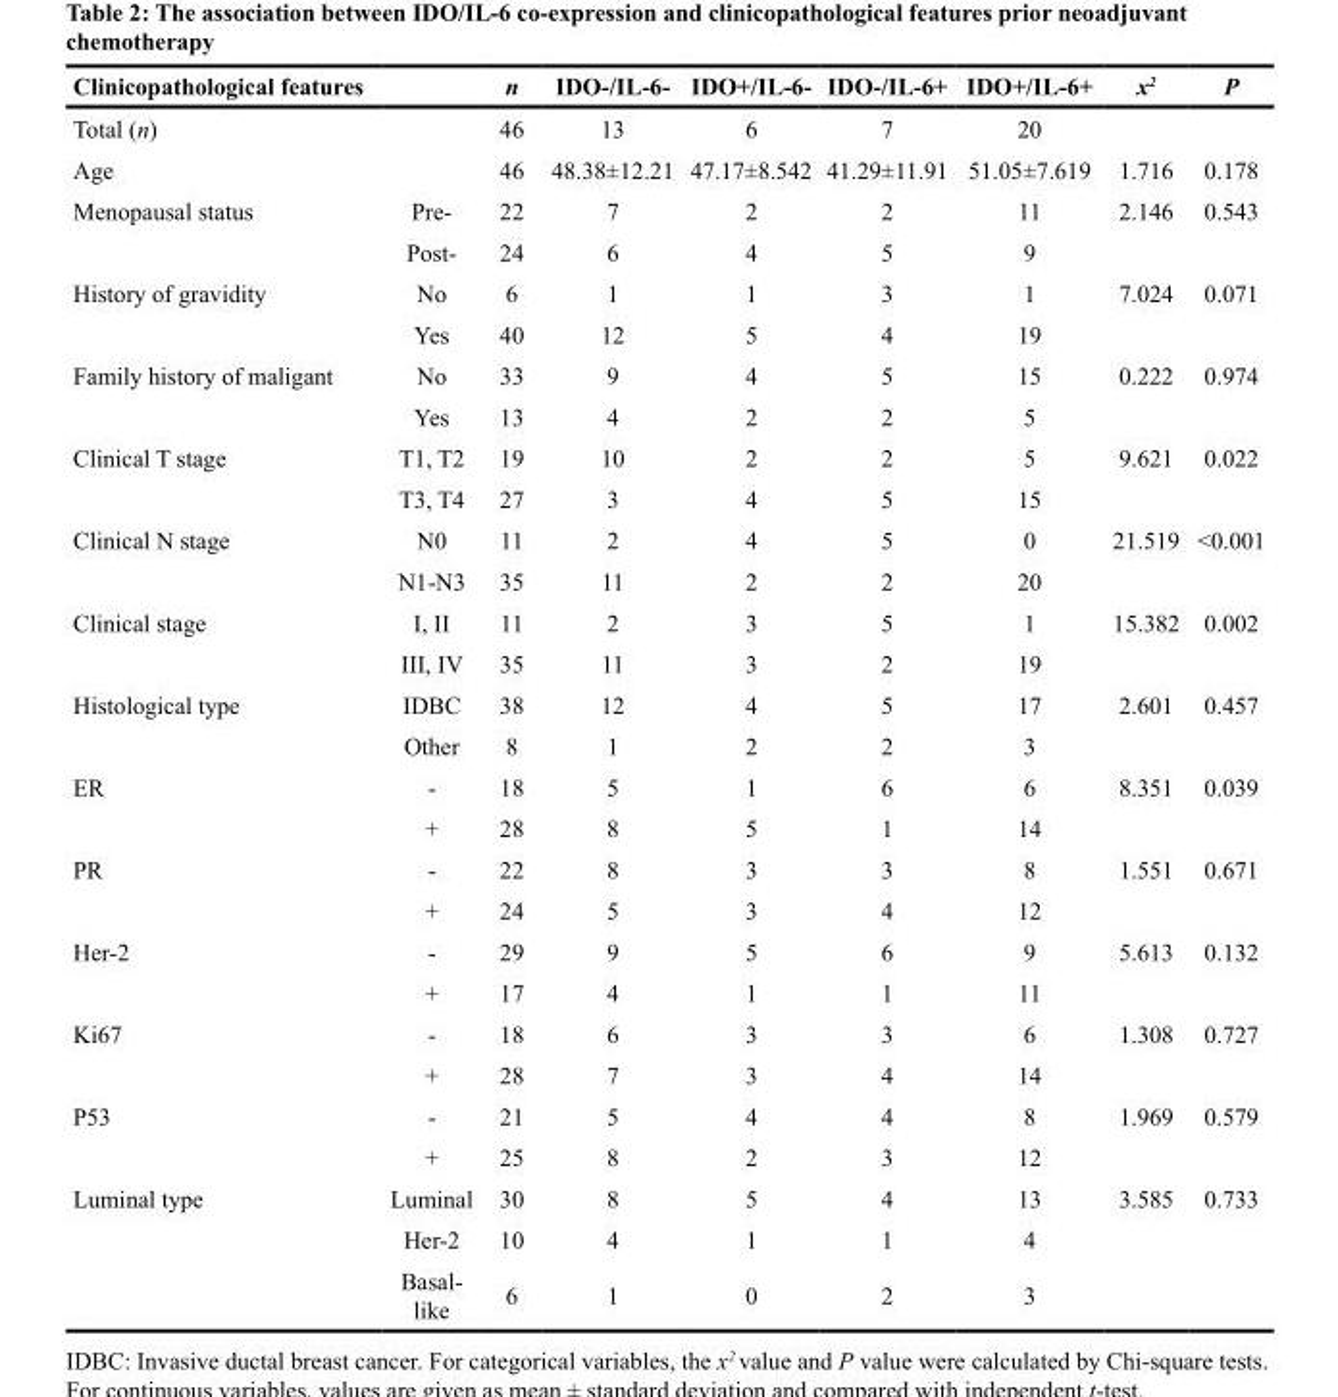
<table><thead><tr><td>Clinicopathological features</td><td></td><td>n</td><td>IDO-/IL-6-</td><td>IDO+/IL-6-</td><td>IDO-/IL-6+</td><td>IDO+/IL-6+</td><td>x<sup>2</sup></td><td>P</td></tr></thead><tbody><tr><td>Total (n)</td><td></td><td>46</td><td>13</td><td>6</td><td>7</td><td>20</td><td></td><td></td></tr><tr><td>Age</td><td></td><td>46</td><td>48.38±12.21</td><td>47.17±8.542</td><td>41.29±11.91</td><td>51.05±7.619</td><td>1.716</td><td>0.178</td></tr><tr><td rowspan="2">Menopausal status</td><td>Pre-</td><td>22</td><td>7</td><td>2</td><td>2</td><td>11</td><td>2.146</td><td>0.543</td></tr><tr><td>Post-</td><td>24</td><td>6</td><td>4</td><td>5</td><td>9</td><td></td><td></td></tr><tr><td rowspan="2">History of gravidity</td><td>No</td><td>6</td><td>1</td><td>1</td><td>3</td><td>1</td><td>7.024</td><td>0.071</td></tr><tr><td>Yes</td><td>40</td><td>12</td><td>5</td><td>4</td><td>19</td><td></td><td></td></tr><tr><td rowspan="2">Family history of maligant</td><td>No</td><td>33</td><td>9</td><td>4</td><td>5</td><td>15</td><td>0.222</td><td>0.974</td></tr><tr><td>Yes</td><td>13</td><td>4</td><td>2</td><td>2</td><td>5</td><td></td><td></td></tr><tr><td rowspan="2">Clinical T stage</td><td>T1, T2</td><td>19</td><td>10</td><td>2</td><td>2</td><td>5</td><td>9.621</td><td>0.022</td></tr><tr><td>T3, T4</td><td>27</td><td>3</td><td>4</td><td>5</td><td>15</td><td></td><td></td></tr><tr><td rowspan="2">Clinical N stage</td><td>N0</td><td>11</td><td>2</td><td>4</td><td>5</td><td>0</td><td>21.519</td><td>&lt;0.001</td></tr><tr><td>N1-N3</td><td>35</td><td>11</td><td>2</td><td>2</td><td>20</td><td></td><td></td></tr><tr><td rowspan="2">Clinical stage</td><td>I, II</td><td>11</td><td>2</td><td>3</td><td>5</td><td>1</td><td>15.382</td><td>0.002</td></tr><tr><td>III, IV</td><td>35</td><td>11</td><td>3</td><td>2</td><td>19</td><td></td><td></td></tr><tr><td rowspan="2">Histological type</td><td>IDBC</td><td>38</td><td>12</td><td>4</td><td>5</td><td>17</td><td>2.601</td><td>0.457</td></tr><tr><td>Other</td><td>8</td><td>1</td><td>2</td><td>2</td><td>3</td><td></td><td></td></tr><tr><td rowspan="2">ER</td><td>-</td><td>18</td><td>5</td><td>1</td><td>6</td><td>6</td><td>8.351</td><td>0.039</td></tr><tr><td>+</td><td>28</td><td>8</td><td>5</td><td>1</td><td>14</td><td></td><td></td></tr><tr><td rowspan="2">PR</td><td>-</td><td>22</td><td>8</td><td>3</td><td>3</td><td>8</td><td>1.551</td><td>0.671</td></tr><tr><td>+</td><td>24</td><td>5</td><td>3</td><td>4</td><td>12</td><td></td><td></td></tr><tr><td rowspan="2">Her-2</td><td>-</td><td>29</td><td>9</td><td>5</td><td>6</td><td>9</td><td>5.613</td><td>0.132</td></tr><tr><td>+</td><td>17</td><td>4</td><td>1</td><td>1</td><td>11</td><td></td><td></td></tr><tr><td rowspan="2">Ki67</td><td>-</td><td>18</td><td>6</td><td>3</td><td>3</td><td>6</td><td>1.308</td><td>0.727</td></tr><tr><td>+</td><td>28</td><td>7</td><td>3</td><td>4</td><td>14</td><td></td><td></td></tr><tr><td rowspan="2">P53</td><td>-</td><td>21</td><td>5</td><td>4</td><td>4</td><td>8</td><td>1.969</td><td>0.579</td></tr><tr><td>+</td><td>25</td><td>8</td><td>2</td><td>3</td><td>12</td><td></td><td></td></tr><tr><td rowspan="3">Luminal type</td><td>Luminal</td><td>30</td><td>8</td><td>5</td><td>4</td><td>13</td><td>3.585</td><td>0.733</td></tr><tr><td>Her-2</td><td>10</td><td>4</td><td>1</td><td>1</td><td>4</td><td></td><td></td></tr><tr><td>Basal- like</td><td>6</td><td>1</td><td>0</td><td>2</td><td>3</td><td></td><td></td></tr></tbody></table>